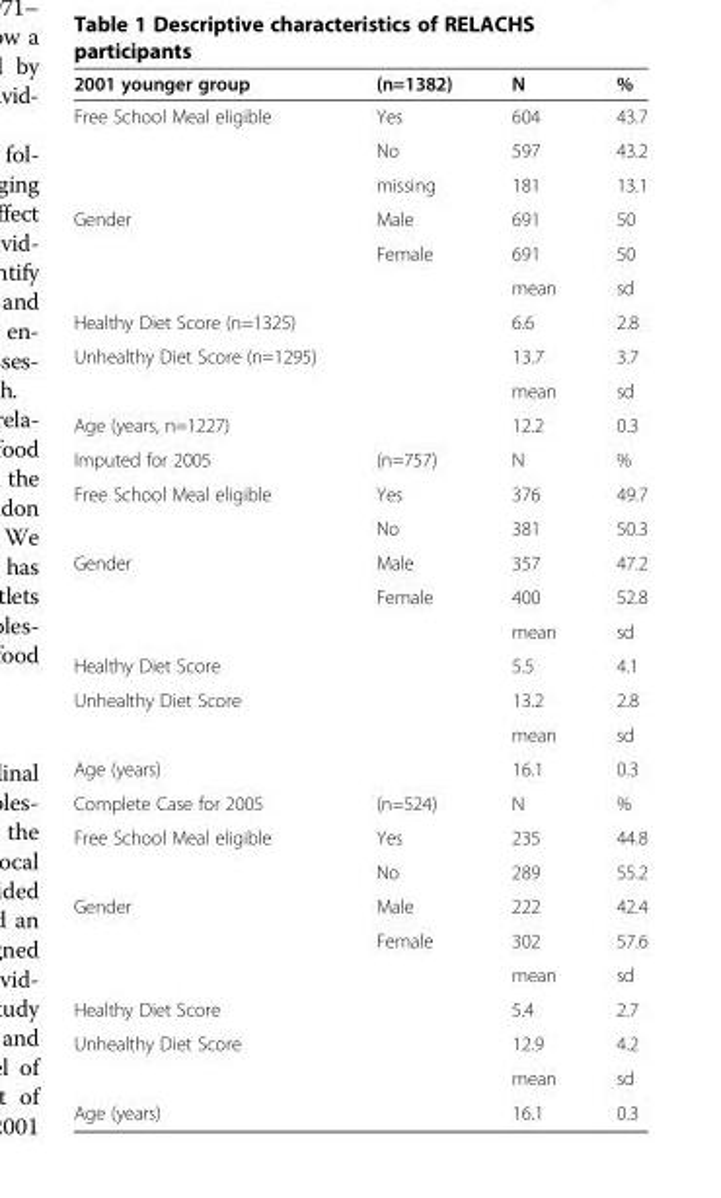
<table><tbody><tr><td>2001 younger group</td><td>(n=1382)</td><td>N</td><td>%</td></tr><tr><td rowspan="3">Free School Meal eligible</td><td>Yes</td><td>604</td><td>43.7</td></tr><tr><td>No</td><td>597</td><td>43.2</td></tr><tr><td>missing</td><td>181</td><td>13.1</td></tr><tr><td rowspan="3">Gender</td><td>Male</td><td>691</td><td>50</td></tr><tr><td>Female</td><td>691</td><td>50</td></tr><tr><td></td><td>mean</td><td>sd</td></tr><tr><td>Healthy Diet Score (n=1325)</td><td></td><td>6.6</td><td>2.8</td></tr><tr><td rowspan="2">Unhealthy Diet Score (n=1295)</td><td></td><td>13.7</td><td>3.7</td></tr><tr><td></td><td>mean</td><td>sd</td></tr><tr><td>Age (years, n=1227)</td><td></td><td>12.2</td><td>0.3</td></tr><tr><td>Imputed for 2005</td><td>(n=757)</td><td>N</td><td>%</td></tr><tr><td rowspan="2">Free School Meal eligible</td><td>Yes</td><td>376</td><td>49.7</td></tr><tr><td>No</td><td>381</td><td>50.3</td></tr><tr><td rowspan="3">Gender</td><td>Male</td><td>357</td><td>47.2</td></tr><tr><td>Female</td><td>400</td><td>52.8</td></tr><tr><td></td><td>mean</td><td>sd</td></tr><tr><td>Healthy Diet Score</td><td></td><td>5.5</td><td>4.1</td></tr><tr><td rowspan="2">Unhealthy Diet Score</td><td></td><td>13.2</td><td>2.8</td></tr><tr><td></td><td>mean</td><td>sd</td></tr><tr><td>Age (years)</td><td></td><td>16.1</td><td>0.3</td></tr><tr><td>Complete Case for 2005</td><td>(n=524)</td><td>N</td><td>%</td></tr><tr><td rowspan="2">Free School Meal eligible</td><td>Yes</td><td>235</td><td>44.8</td></tr><tr><td>No</td><td>289</td><td>55.2</td></tr><tr><td rowspan="3">Gender</td><td>Male</td><td>222</td><td>42.4</td></tr><tr><td>Female</td><td>302</td><td>57.6</td></tr><tr><td></td><td>mean</td><td>sd</td></tr><tr><td>Healthy Diet Score</td><td></td><td>5.4</td><td>2.7</td></tr><tr><td rowspan="2">Unhealthy Diet Score</td><td></td><td>12.9</td><td>4.2</td></tr><tr><td></td><td>mean</td><td>sd</td></tr><tr><td>Age (years)</td><td></td><td>16.1</td><td>0.3</td></tr></tbody></table>